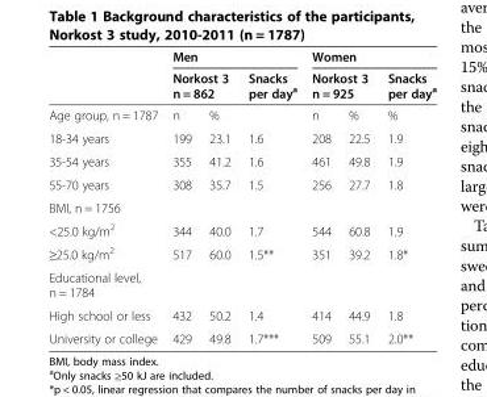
<table><thead><tr><td rowspan="3">Age group, n = 1787</td><td colspan="3">Men</td><td colspan="3">Women</td></tr><tr><td colspan="2">Norkost 3 n = 862</td><td rowspan="2">Snacks per day<sup>a</sup></td><td colspan="2">Norkost 3 n = 925</td><td rowspan="2">Snacks per day<sup>a</sup> %</td></tr><tr><td>n</td><td>%</td><td>n</td><td>%</td></tr></thead><tbody><tr><td>18-34 years</td><td>199</td><td>23.1</td><td>1.6</td><td>208</td><td>22.5</td><td>1.9</td></tr><tr><td>35-54 years</td><td>355</td><td>41.2</td><td>1.6</td><td>461</td><td>49.8</td><td>1.9</td></tr><tr><td>55-70 years</td><td>308</td><td>35.7</td><td>1.5</td><td>256</td><td>27.7</td><td>1.8</td></tr><tr><td colspan="7">BMI, n = 1756</td></tr><tr><td>&lt;25.0 kg/m<sup>2</sup></td><td>344</td><td>40.0</td><td>1.7</td><td>544</td><td>60.8</td><td>1.9</td></tr><tr><td>≥25.0 kg/m<sup>2</sup></td><td>517</td><td>60.0</td><td>1.5**</td><td>351</td><td>39.2</td><td>1.8*</td></tr><tr><td colspan="7">Educational level, n = 1784</td></tr><tr><td>High school or less</td><td>432</td><td>50.2</td><td>1.4</td><td>414</td><td>44.9</td><td>1.8</td></tr><tr><td>University or college</td><td>429</td><td>49.8</td><td>1.7***</td><td>509</td><td>55.1</td><td>2.0**</td></tr></tbody></table>